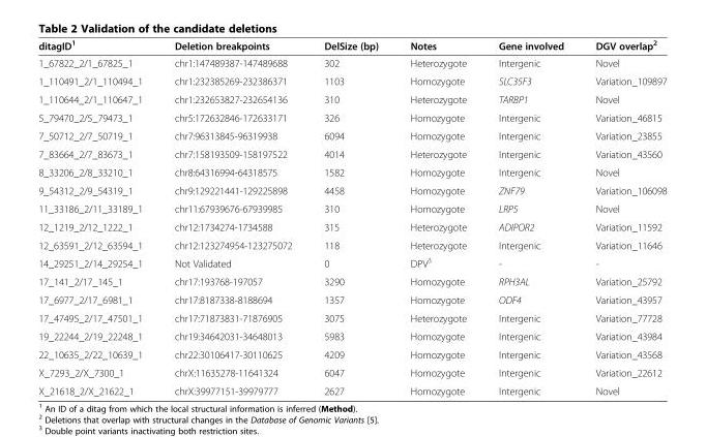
<table><thead><tr><td>ditagID<sup>1</sup></td><td>Deletion breakpoints</td><td>DelSize (bp)</td><td>Notes</td><td>Gene involved</td><td>DGV overlap<sup>2</sup></td></tr></thead><tbody><tr><td>1_67822_2/1_67825_1</td><td>chr1:147489387-147489688</td><td>302</td><td>Heterozygote</td><td>Intergenic</td><td>Novel</td></tr><tr><td>1_110491_2/1_110494_1</td><td>chr1:232385269-232386371</td><td>1103</td><td>Homozygote</td><td>SLC35F3</td><td>Variation_109897</td></tr><tr><td>1_110644_2/1_110647_1</td><td>chr1:232653827-232654136</td><td>310</td><td>Heterozygote</td><td>TARBP1</td><td>Novel</td></tr><tr><td>5_79470_2/5_79473_1</td><td>chr5:172632846-172633171</td><td>326</td><td>Homozygote</td><td>Intergenic</td><td>Variation_46815</td></tr><tr><td>7_50712_2/7_50719_1</td><td>chr7:96313845-96319938</td><td>6094</td><td>Homozygote</td><td>Intergenic</td><td>Variation_23855</td></tr><tr><td>7_83664_2/7_83673_1</td><td>chr7:158193509-158197522</td><td>4014</td><td>Heterozygote</td><td>Intergenic</td><td>Variation_43560</td></tr><tr><td>8_33206_2/8_33210_1</td><td>chr8:64316994-64318575</td><td>1582</td><td>Homozygote</td><td>Intergenic</td><td>Novel</td></tr><tr><td>9_54312_2/9_54319_1</td><td>chr9:129221441-129225898</td><td>4458</td><td>Homozygote</td><td>ZNF79</td><td>Variation_106098</td></tr><tr><td>11_33186_2/11_33189_1</td><td>chr11:67939676-67939985</td><td>310</td><td>Homozygote</td><td>LRP5</td><td>Novel</td></tr><tr><td>12_1219_2/12_1222_1</td><td>chr12:1734274-1734588</td><td>315</td><td>Heterozygote</td><td>ADIPOR2</td><td>Variation_11592</td></tr><tr><td>12_63591_2/12_63594_1</td><td>chr12:123274954-123275072</td><td>118</td><td>Heterozygote</td><td>Intergenic</td><td>Variation_11646</td></tr><tr><td>14_29251_2/14_29254_1</td><td>Not Validated</td><td>0</td><td>DPV<sup>3</sup></td><td>-</td><td>-</td></tr><tr><td>17_141_2/17_145_1</td><td>chr17:193768-197057</td><td>3290</td><td>Homozygote</td><td>RPH3AL</td><td>Variation_25792</td></tr><tr><td>17_6977_2/17_6981_1</td><td>chr17:8187338-8188694</td><td>1357</td><td>Homozygote</td><td>ODF4</td><td>Variation_43957</td></tr><tr><td>17_47495_2/17_47501_1</td><td>chr17:71873831-71876905</td><td>3075</td><td>Heterozygote</td><td>Intergenic</td><td>Variation_77728</td></tr><tr><td>19_22244_2/19_22248_1</td><td>chr19:34642031-34648013</td><td>5983</td><td>Homozygote</td><td>Intergenic</td><td>Variation_43984</td></tr><tr><td>22_10635_2/22_10639_1</td><td>chr22:30106417-30110625</td><td>4209</td><td>Homozygote</td><td>Intergenic</td><td>Variation_43568</td></tr><tr><td>X_7293_2/X_7300_1</td><td>chrX:11635278-11641324</td><td>6047</td><td>Homozygote</td><td>Intergenic</td><td>Variation_22612</td></tr><tr><td>X_21618_2/X_21622_1</td><td>chrX:39977151-39979777</td><td>2627</td><td>Homozygote</td><td>Intergenic</td><td>Novel</td></tr></tbody></table>